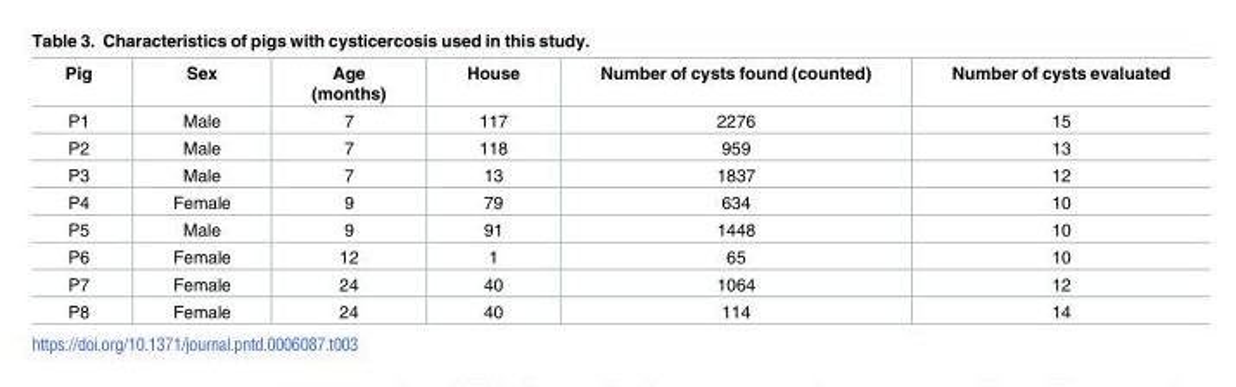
<table><thead><tr><td>Pig</td><td>Sex</td><td>Age (months)</td><td>House</td><td>Number of cysts found (counted)</td><td>Number of cysts evaluated</td></tr></thead><tbody><tr><td>P1</td><td>Male</td><td>7</td><td>117</td><td>2276</td><td>15</td></tr><tr><td>P2</td><td>Male</td><td>7</td><td>118</td><td>959</td><td>13</td></tr><tr><td>P3</td><td>Male</td><td>7</td><td>13</td><td>1837</td><td>12</td></tr><tr><td>P4</td><td>Female</td><td>9</td><td>79</td><td>634</td><td>10</td></tr><tr><td>P5</td><td>Male</td><td>9</td><td>91</td><td>1448</td><td>10</td></tr><tr><td>P6</td><td>Female</td><td>12</td><td>1</td><td>65</td><td>10</td></tr><tr><td>P7</td><td>Female</td><td>24</td><td>40</td><td>1064</td><td>12</td></tr><tr><td>P8</td><td>Female</td><td>24</td><td>40</td><td>114</td><td>14</td></tr></tbody></table>